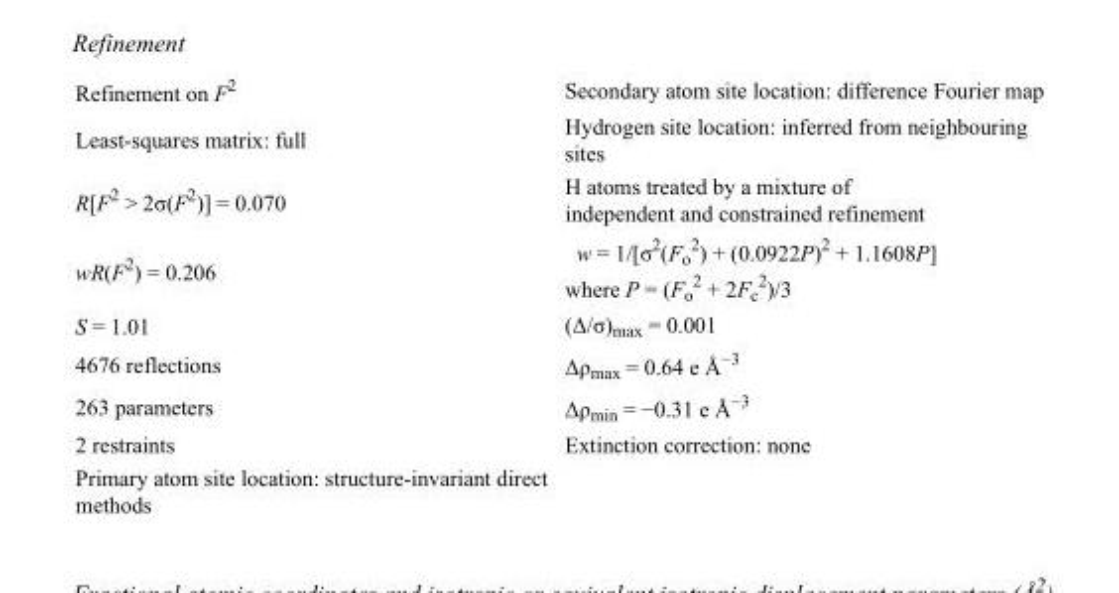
<table><tbody><tr><td>Refinement on F<sup>2</sup></td><td>Secondary atom site location: difference Fourier map</td></tr><tr><td>Least-squares matrix: full</td><td>Hydrogen site location: inferred from neighbouring sites</td></tr><tr><td>R[F<sup>2</sup> &gt; 2σ(F<sup>2</sup>)] = 0.070</td><td>H atoms treated by a mixture of independent and constrained refinement</td></tr><tr><td>wR(F<sup>2</sup>) = 0.206</td><td>w = 1/[σ<sup>2</sup>(F<sub>o</sub> <sup>2</sup>) + (0.0922P)<sup>2</sup> + 1.1608P] where P = (F<sub>o</sub> <sup>2</sup> + 2F<sub>c</sub> <sup>2</sup>)/3</td></tr><tr><td>S = 1.01</td><td>(Δ/σ)<sub>max</sub> = 0.001</td></tr><tr><td>4676 reflections</td><td>Δρ<sub>max</sub> = 0.64 e Å<sup>−3</sup></td></tr><tr><td>263 parameters</td><td>Δρ<sub>min</sub> = −0.31 e Å<sup>−3</sup></td></tr><tr><td>2 restraints</td><td>Extinction correction: none</td></tr><tr><td>Primary atom site location: structure-invariant direct methods</td><td></td></tr></tbody></table>